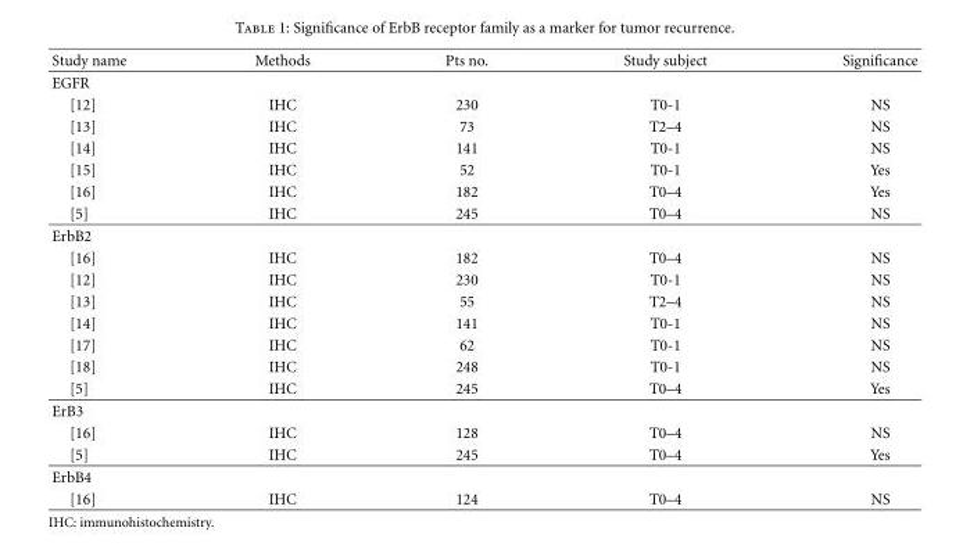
<table><thead><tr><td>Study name</td><td>Methods</td><td>Pts no.</td><td>Study subject</td><td>Significance</td></tr></thead><tbody><tr><td colspan="5">EGFR</td></tr><tr><td>[12]</td><td>IHC</td><td>230</td><td>T0-1</td><td>NS</td></tr><tr><td>[13]</td><td>IHC</td><td>73</td><td>T2–4</td><td>NS</td></tr><tr><td>[14]</td><td>IHC</td><td>141</td><td>T0-1</td><td>NS</td></tr><tr><td>[15]</td><td>IHC</td><td>52</td><td>T0-1</td><td>Yes</td></tr><tr><td>[16]</td><td>IHC</td><td>182</td><td>T0–4</td><td>Yes</td></tr><tr><td>[5]</td><td>IHC</td><td>245</td><td>T0–4</td><td>NS</td></tr><tr><td colspan="5">ErbB2</td></tr><tr><td>[16]</td><td>IHC</td><td>182</td><td>T0–4</td><td>NS</td></tr><tr><td>[12]</td><td>IHC</td><td>230</td><td>T0-1</td><td>NS</td></tr><tr><td>[13]</td><td>IHC</td><td>55</td><td>T2–4</td><td>NS</td></tr><tr><td>[14]</td><td>IHC</td><td>141</td><td>T0-1</td><td>NS</td></tr><tr><td>[17]</td><td>IHC</td><td>62</td><td>T0-1</td><td>NS</td></tr><tr><td>[18]</td><td>IHC</td><td>248</td><td>T0-1</td><td>NS</td></tr><tr><td>[5]</td><td>IHC</td><td>245</td><td>T0–4</td><td>Yes</td></tr><tr><td colspan="5">ErB3</td></tr><tr><td>[16]</td><td>IHC</td><td>128</td><td>T0–4</td><td>NS</td></tr><tr><td>[5]</td><td>IHC</td><td>245</td><td>T0–4</td><td>Yes</td></tr><tr><td colspan="5">ErbB4</td></tr><tr><td>[16]</td><td>IHC</td><td>124</td><td>T0–4</td><td>NS</td></tr></tbody></table>